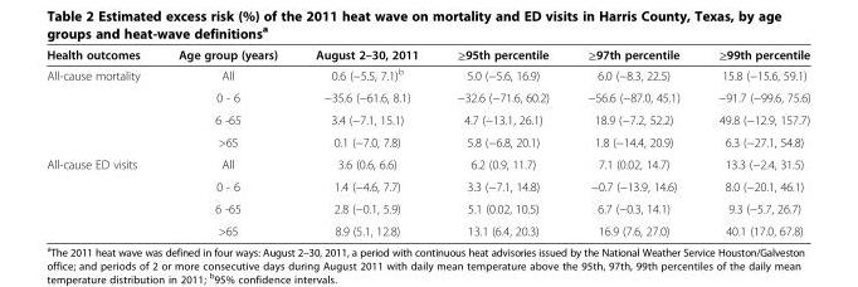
<table><thead><tr><td>Health outcomes</td><td>Age group (years)</td><td>August 2–30, 2011</td><td>≥95th percentile</td><td>≥97th percentile</td><td>≥99th percentile</td></tr></thead><tbody><tr><td rowspan="4">All-cause mortality</td><td>All</td><td>0.6 (−5.5, 7.1)<sup>b</sup></td><td>5.0 (−5.6, 16.9)</td><td>6.0 (−8.3, 22.5)</td><td>15.8 (−15.6, 59.1)</td></tr><tr><td>0 - 6</td><td>−35.6 (−61.6, 8.1)</td><td>−32.6 (−71.6, 60.2)</td><td>−56.6 (−87.0, 45.1)</td><td>−91.7 (−99.6, 75.6)</td></tr><tr><td>6 -65</td><td>3.4 (−7.1, 15.1)</td><td>4.7 (−13.1, 26.1)</td><td>18.9 (−7.2, 52.2)</td><td>49.8 (−12.9, 157.7)</td></tr><tr><td>&gt;65</td><td>0.1 (−7.0, 7.8)</td><td>5.8 (−6.8, 20.1)</td><td>1.8 (−14.4, 20.9)</td><td>6.3 (−27.1, 54.8)</td></tr><tr><td rowspan="4">All-cause ED visits</td><td>All</td><td>3.6 (0.6, 6.6)</td><td>6.2 (0.9, 11.7)</td><td>7.1 (0.02, 14.7)</td><td>13.3 (−2.4, 31.5)</td></tr><tr><td>0 - 6</td><td>1.4 (−4.6, 7.7)</td><td>3.3 (−7.1, 14.8)</td><td>−0.7 (−13.9, 14.6)</td><td>8.0 (−20.1, 46.1)</td></tr><tr><td>6 -65</td><td>2.8 (−0.1, 5.9)</td><td>5.1 (0.02, 10.5)</td><td>6.7 (−0.3, 14.1)</td><td>9.3 (−5.7, 26.7)</td></tr><tr><td>&gt;65</td><td>8.9 (5.1, 12.8)</td><td>13.1 (6.4, 20.3)</td><td>16.9 (7.6, 27.0)</td><td>40.1 (17.0, 67.8)</td></tr></tbody></table>